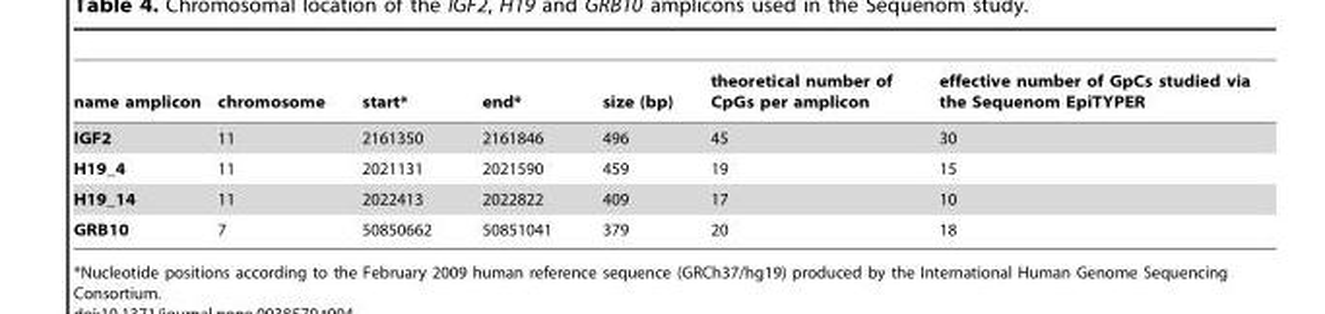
<table><thead><tr><td>name amplicon</td><td>chromosome</td><td>start*</td><td>end*</td><td>size (bp)</td><td>theoretical number of CpGs per amplicon</td><td>effective number of GpCs studied via the Sequenom EpiTYPER</td></tr></thead><tbody><tr><td>IGF2</td><td>11</td><td>2161350</td><td>2161846</td><td>496</td><td>45</td><td>30</td></tr><tr><td>H19_4</td><td>11</td><td>2021131</td><td>2021590</td><td>459</td><td>19</td><td>15</td></tr><tr><td>H19_14</td><td>11</td><td>2022413</td><td>2022822</td><td>409</td><td>17</td><td>10</td></tr><tr><td>GRB10</td><td>7</td><td>50850662</td><td>50851041</td><td>379</td><td>20</td><td>18</td></tr></tbody></table>